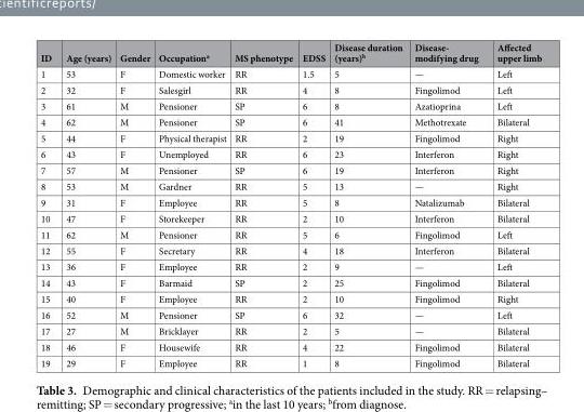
<table><thead><tr><td>ID</td><td>Age (years)</td><td>Gender</td><td>Occupation<sup>a</sup></td><td>MS phenotype</td><td>EDSS</td><td>Disease duration (years)<sup>b</sup></td><td>Disease- modifying drug</td><td>Affected upper limb</td></tr></thead><tbody><tr><td>1</td><td>53</td><td>F</td><td>Domestic worker</td><td>RR</td><td>1.5</td><td>5</td><td>—</td><td>Left</td></tr><tr><td>2</td><td>32</td><td>F</td><td>Salesgirl</td><td>RR</td><td>4</td><td>8</td><td>Fingolimod</td><td>Left</td></tr><tr><td>3</td><td>61</td><td>M</td><td>Pensioner</td><td>SP</td><td>6</td><td>8</td><td>Azatioprina</td><td>Left</td></tr><tr><td>4</td><td>62</td><td>M</td><td>Pensioner</td><td>SP</td><td>6</td><td>41</td><td>Methotrexate</td><td>Bilateral</td></tr><tr><td>5</td><td>44</td><td>F</td><td>Physical therapist</td><td>RR</td><td>2</td><td>19</td><td>Fingolimod</td><td>Right</td></tr><tr><td>6</td><td>43</td><td>F</td><td>Unemployed</td><td>RR</td><td>6</td><td>23</td><td>Interferon</td><td>Right</td></tr><tr><td>7</td><td>57</td><td>M</td><td>Pensioner</td><td>SP</td><td>6</td><td>19</td><td>Interferon</td><td>Right</td></tr><tr><td>8</td><td>53</td><td>M</td><td>Gardner</td><td>RR</td><td>5</td><td>13</td><td>—</td><td>Right</td></tr><tr><td>9</td><td>31</td><td>F</td><td>Employee</td><td>RR</td><td>5</td><td>8</td><td>Natalizumab</td><td>Bilateral</td></tr><tr><td>10</td><td>47</td><td>F</td><td>Storekeeper</td><td>RR</td><td>2</td><td>10</td><td>Interferon</td><td>Bilateral</td></tr><tr><td>11</td><td>62</td><td>M</td><td>Pensioner</td><td>RR</td><td>5</td><td>6</td><td>Fingolimod</td><td>Left</td></tr><tr><td>12</td><td>55</td><td>F</td><td>Secretary</td><td>RR</td><td>4</td><td>18</td><td>Interferon</td><td>Bilateral</td></tr><tr><td>13</td><td>36</td><td>F</td><td>Employee</td><td>RR</td><td>2</td><td>9</td><td>—</td><td>Left</td></tr><tr><td>14</td><td>43</td><td>F</td><td>Barmaid</td><td>SP</td><td>2</td><td>25</td><td>Fingolimod</td><td>Bilateral</td></tr><tr><td>15</td><td>40</td><td>F</td><td>Employee</td><td>RR</td><td>2</td><td>10</td><td>Fingolimod</td><td>Right</td></tr><tr><td>16</td><td>52</td><td>M</td><td>Pensioner</td><td>SP</td><td>6</td><td>32</td><td>—</td><td>Left</td></tr><tr><td>17</td><td>27</td><td>M</td><td>Bricklayer</td><td>RR</td><td>2</td><td>5</td><td>—</td><td>Bilateral</td></tr><tr><td>18</td><td>46</td><td>F</td><td>Housewife</td><td>RR</td><td>4</td><td>22</td><td>Fingolimod</td><td>Bilateral</td></tr><tr><td>19</td><td>29</td><td>F</td><td>Employee</td><td>RR</td><td>1</td><td>8</td><td>Fingolimod</td><td>Bilateral</td></tr></tbody></table>